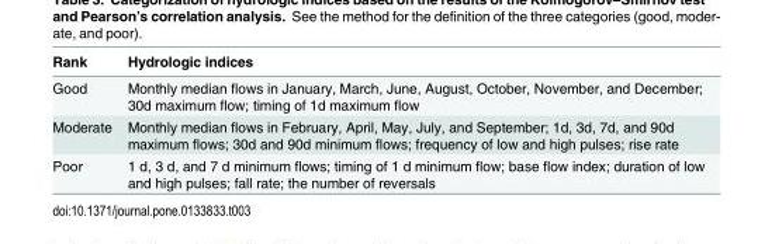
<table><thead><tr><td>Rank</td><td>Hydrologic indices</td></tr></thead><tbody><tr><td>Good</td><td>Monthly median flows in January, March, June, August, October, November, and December; 30d maximum flow; timing of 1d maximum flow</td></tr><tr><td>Moderate</td><td>Monthly median flows in February, April, May, July, and September; 1d, 3d, 7d, and 90d maximum flows; 30d and 90d minimum flows; frequency of low and high pulses; rise rate</td></tr><tr><td>Poor</td><td>1 d, 3 d, and 7 d minimum flows; timing of 1 d minimum flow; base flow index; duration of low and high pulses; fall rate; the number of reversals</td></tr></tbody></table>